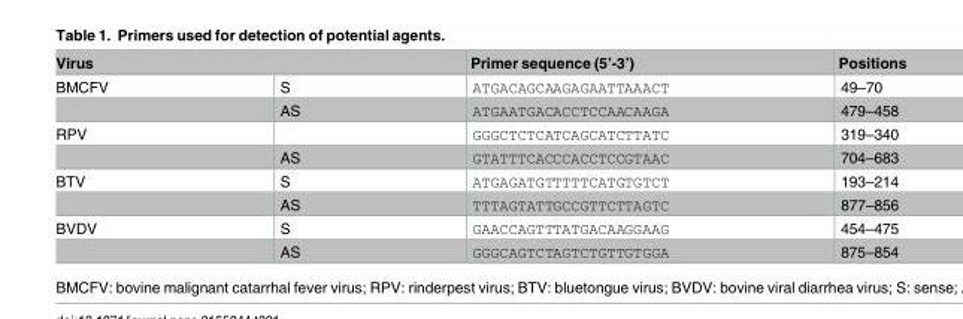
<table><thead><tr><td colspan="2">Virus</td><td rowspan="2">Primer sequence (5’-3’) ATGACAGCAAGAGAATTAAACT</td><td rowspan="2">Positions 49–70</td></tr><tr><td>BMCFV</td><td>S</td></tr></thead><tbody><tr><td></td><td>AS</td><td>ATGAATGACACCTCCAACAAGA</td><td>479–458</td></tr><tr><td rowspan="2">RPV</td><td></td><td>GGGCTCTCATCAGCATCTTATC</td><td>319–340</td></tr><tr><td>AS</td><td>GTATTTCACCCACCTCCGTAAC</td><td>704–683</td></tr><tr><td rowspan="2">BTV</td><td>S</td><td>ATGAGATGTTTTTCATGTGTCT</td><td>193–214</td></tr><tr><td>AS</td><td>TTTAGTATTGCCGTTCTTAGTC</td><td>877–856</td></tr><tr><td rowspan="2">BVDV</td><td>S</td><td>GAACCAGTTTATGACAAGGAAG</td><td>454–475</td></tr><tr><td>AS</td><td>GGGCAGTCTAGTCTGTTGTGGA</td><td>875–854</td></tr></tbody></table>